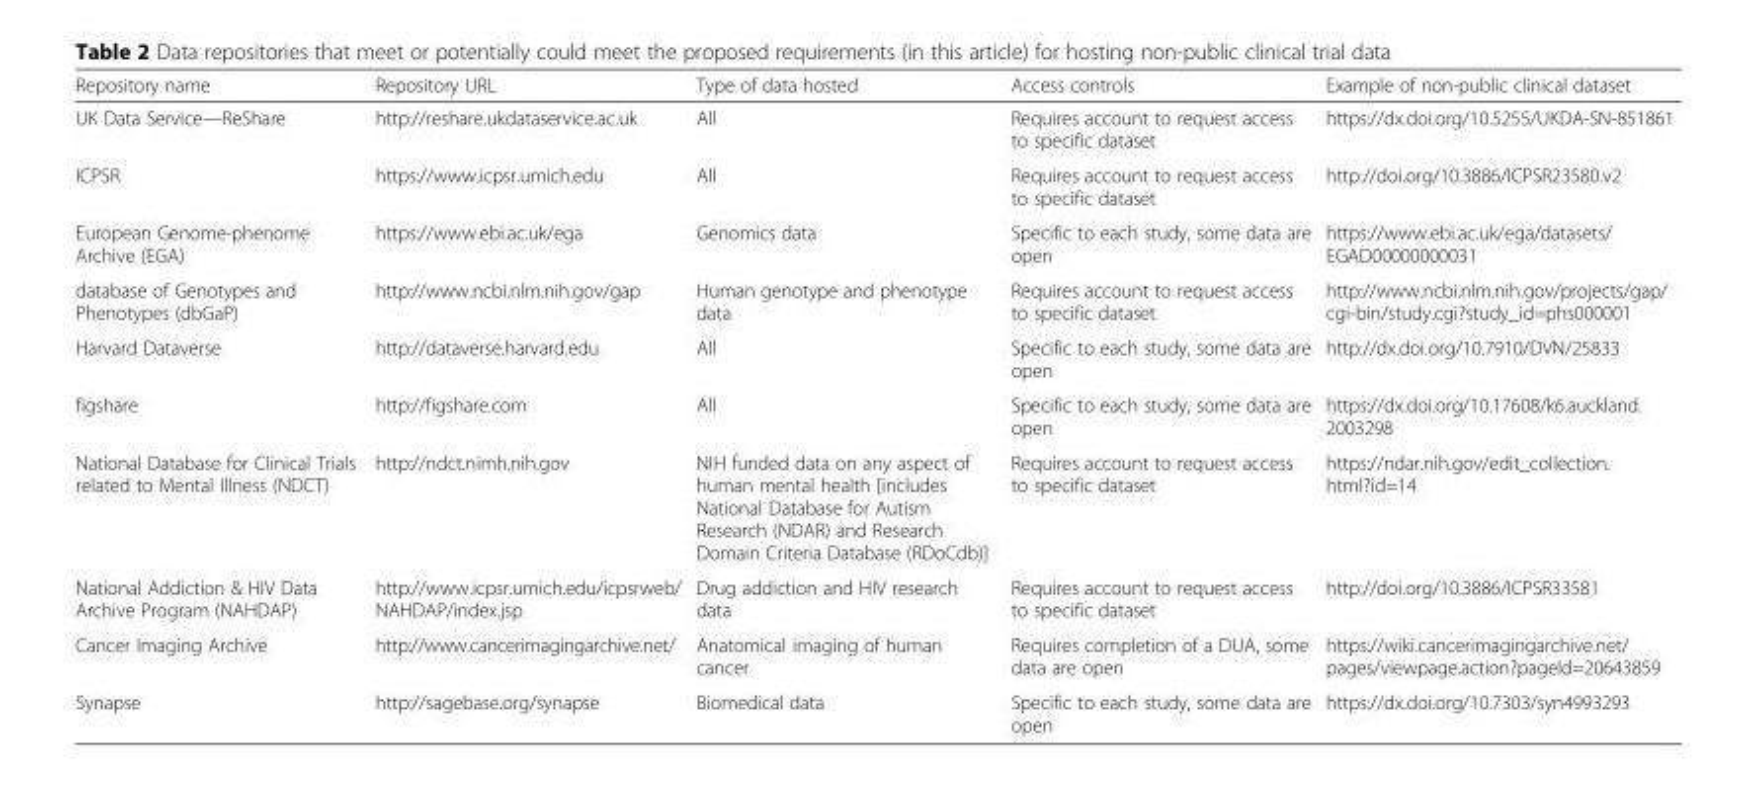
<table><thead><tr><td>Repository name</td><td>Repository URL</td><td>Type of data hosted</td><td>Access controls</td><td>Example of non-public clinical dataset</td></tr></thead><tbody><tr><td>UK Data Service—ReShare</td><td>http://reshare.ukdataservice.ac.uk</td><td>All</td><td>Requires account to request access to specific dataset</td><td>https://dx.doi.org/10.5255/UKDA-SN-851861</td></tr><tr><td>ICPSR</td><td>https://www.icpsr.umich.edu</td><td>All</td><td>Requires account to request access to specific dataset</td><td>http://doi.org/10.3886/ICPSR23580.v2</td></tr><tr><td>European Genome-phenome Archive (EGA)</td><td>https://www.ebi.ac.uk/ega</td><td>Genomics data</td><td>Specific to each study, some data are open</td><td>https://www.ebi.ac.uk/ega/datasets/ EGAD00000000031</td></tr><tr><td>database of Genotypes and Phenotypes (dbGaP)</td><td>http://www.ncbi.nlm.nih.gov/gap</td><td>Human genotype and phenotype data</td><td>Requires account to request access to specific dataset</td><td>http://www.ncbi.nlm.nih.gov/projects/gap/ cgi-bin/study.cgi?study_id=phs000001</td></tr><tr><td>Harvard Dataverse</td><td>http://dataverse.harvard.edu</td><td>All</td><td>Specific to each study, some data are open</td><td>http://dx.doi.org/10.7910/DVN/25833</td></tr><tr><td>figshare</td><td>http://figshare.com</td><td>All</td><td>Specific to each study, some data are open</td><td>https://dx.doi.org/10.17608/k6.auckland. 2003298</td></tr><tr><td>National Database for Clinical Trials related to Mental Illness (NDCT)</td><td>http://ndct.nimh.nih.gov</td><td>NIH funded data on any aspect of human mental health [includes National Database for Autism Research (NDAR) and Research Domain Criteria Database (RDoCdb)]</td><td>Requires account to request access to specific dataset</td><td>https://ndar.nih.gov/edit_collection. html?id=14</td></tr><tr><td>National Addiction &amp; HIV Data Archive Program (NAHDAP)</td><td>http://www.icpsr.umich.edu/icpsrweb/ NAHDAP/index.jsp</td><td>Drug addiction and HIV research data</td><td>Requires account to request access to specific dataset</td><td>http://doi.org/10.3886/ICPSR33581</td></tr><tr><td>Cancer Imaging Archive</td><td>http://www.cancerimagingarchive.net/</td><td>Anatomical imaging of human cancer</td><td>Requires completion of a DUA, some data are open</td><td>https://wiki.cancerimagingarchive.net/ pages/viewpage.action?pageId=20643859</td></tr><tr><td>Synapse</td><td>http://sagebase.org/synapse</td><td>Biomedical data</td><td>Specific to each study, some data are open</td><td>https://dx.doi.org/10.7303/syn4993293</td></tr></tbody></table>